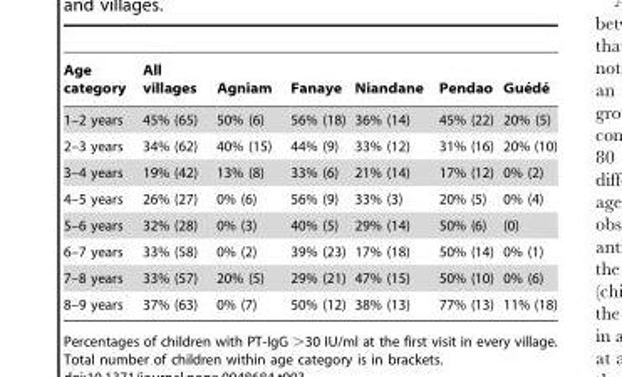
<table><thead><tr><td>Age category</td><td>All villages</td><td>Agniam</td><td>Fanaye</td><td>Niandane</td><td>Pendao</td><td>Gue´de´</td></tr></thead><tbody><tr><td>1–2 years</td><td>45% (65)</td><td>50% (6)</td><td>56% (18)</td><td>36% (14)</td><td>45% (22)</td><td>20% (5)</td></tr><tr><td>2–3 years</td><td>34% (62)</td><td>40% (15)</td><td>44% (9)</td><td>33% (12)</td><td>31% (16)</td><td>20% (10)</td></tr><tr><td>3–4 years</td><td>19% (42)</td><td>13% (8)</td><td>33% (6)</td><td>21% (14)</td><td>17% (12)</td><td>0% (2)</td></tr><tr><td>4–5 years</td><td>26% (27)</td><td>0% (6)</td><td>56% (9)</td><td>33% (3)</td><td>20% (5)</td><td>0% (4)</td></tr><tr><td>5–6 years</td><td>32% (28)</td><td>0% (3)</td><td>40% (5)</td><td>29% (14)</td><td>50% (6)</td><td>(0)</td></tr><tr><td>6–7 years</td><td>33% (58)</td><td>0% (2)</td><td>39% (23)</td><td>17% (18)</td><td>50% (14)</td><td>0% (1)</td></tr><tr><td>7–8 years</td><td>33% (57)</td><td>20% (5)</td><td>29% (21)</td><td>47% (15)</td><td>50% (10)</td><td>0% (6)</td></tr><tr><td>8–9 years</td><td>37% (63)</td><td>0% (7)</td><td>50% (12)</td><td>38% (13)</td><td>77% (13)</td><td>11% (18)</td></tr></tbody></table>